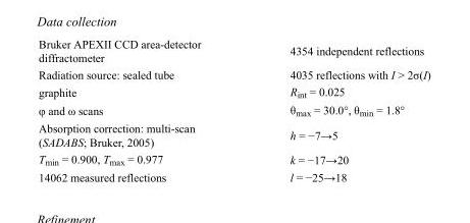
<table><tbody><tr><td>Bruker APEXII CCD area-detector diffractometer</td><td>4354 independent reflections</td></tr><tr><td>Radiation source: sealed tube</td><td>4035 reflections with I &gt; 2σ(I)</td></tr><tr><td>graphite</td><td>R<sub>int</sub> = 0.025</td></tr><tr><td>φ and ω scans</td><td>θ<sub>max</sub> = 30.0°, θ<sub>min</sub> = 1.8°</td></tr><tr><td>Absorption correction: multi-scan (SADABS; Bruker, 2005)</td><td>h = −7→5</td></tr><tr><td>T<sub>min</sub> = 0.900, T<sub>max</sub> = 0.977</td><td>k = −17→20</td></tr><tr><td>14062 measured reflections</td><td>l = −25→18</td></tr></tbody></table>